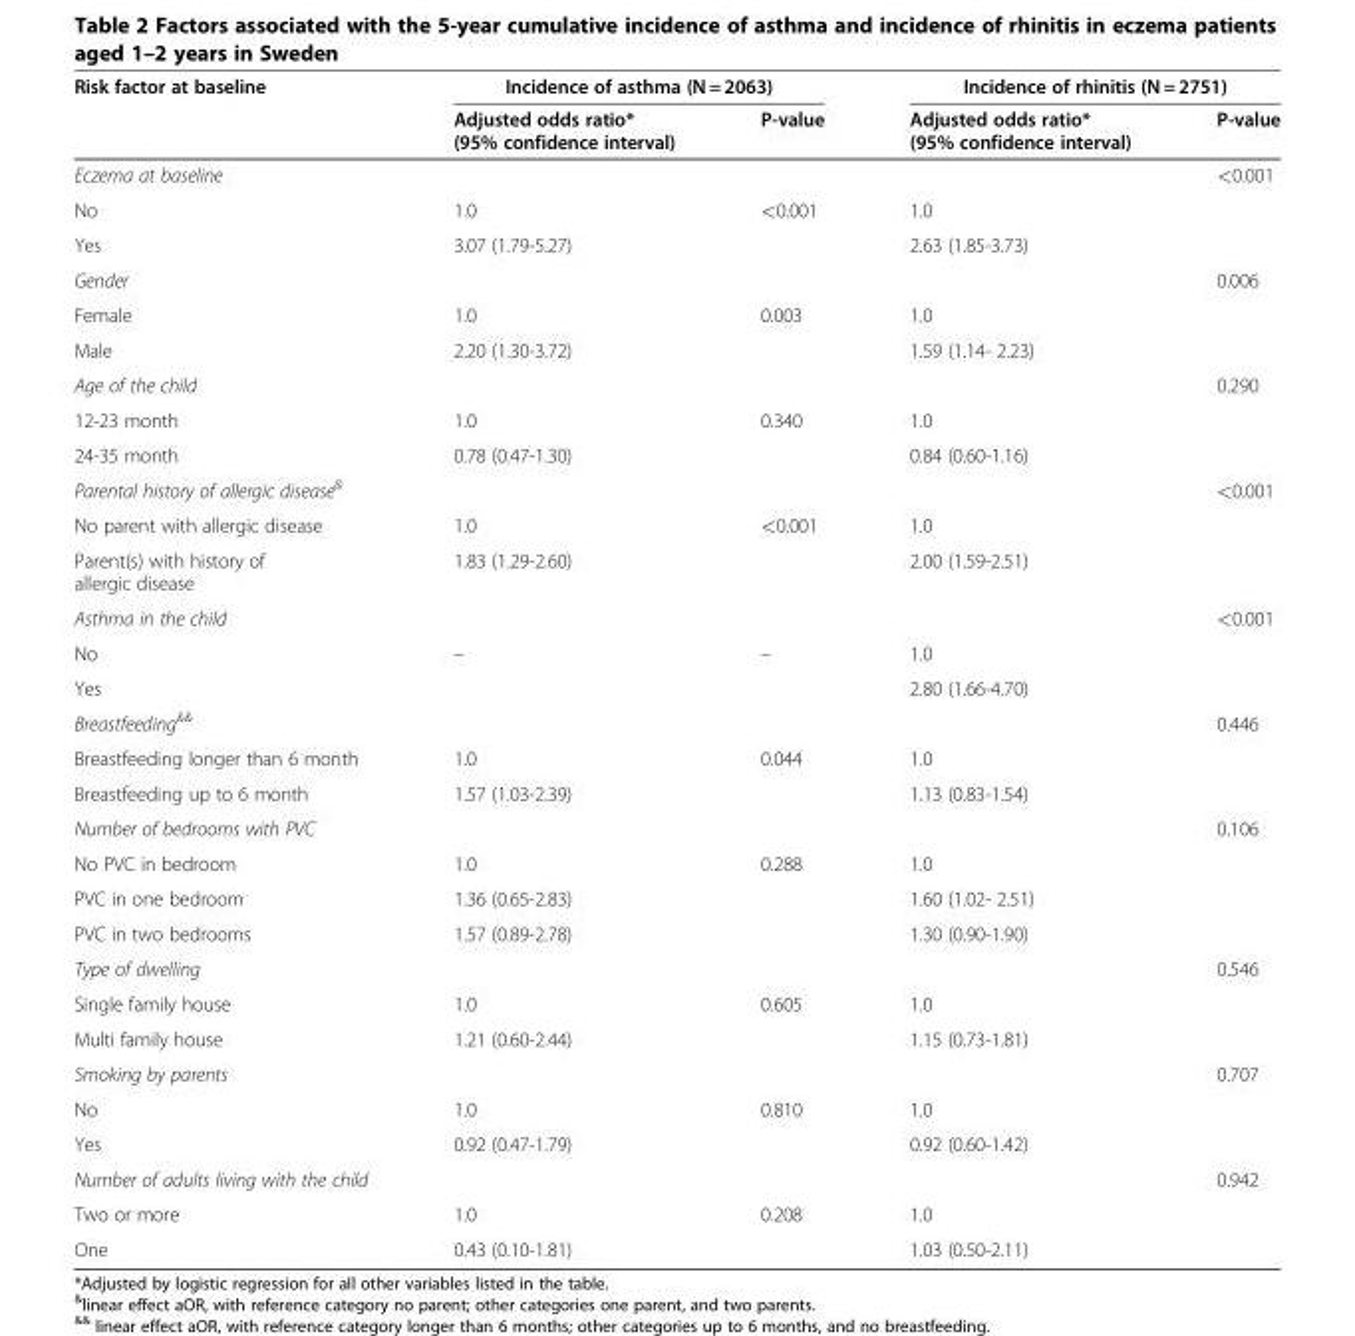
<table><thead><tr><td rowspan="2">Risk factor at baseline</td><td colspan="2">Incidence of asthma (N = 2063)</td><td colspan="2">Incidence of rhinitis (N = 2751)</td></tr><tr><td>Adjusted odds ratio* (95% confidence interval)</td><td>P-value</td><td>Adjusted odds ratio* (95% confidence interval)</td><td>P-value</td></tr></thead><tbody><tr><td>Eczema at baseline</td><td></td><td></td><td></td><td>&lt;0.001</td></tr><tr><td>No</td><td>1.0</td><td>&lt;0.001</td><td>1.0</td><td></td></tr><tr><td>Yes</td><td>3.07 (1.79-5.27)</td><td></td><td>2.63 (1.85-3.73)</td><td></td></tr><tr><td>Gender</td><td></td><td></td><td></td><td>0.006</td></tr><tr><td>Female</td><td>1.0</td><td>0.003</td><td>1.0</td><td></td></tr><tr><td>Male</td><td>2.20 (1.30-3.72)</td><td></td><td>1.59 (1.14- 2.23)</td><td></td></tr><tr><td>Age of the child</td><td></td><td></td><td></td><td>0.290</td></tr><tr><td>12-23 month</td><td>1.0</td><td>0.340</td><td>1.0</td><td></td></tr><tr><td>24-35 month</td><td>0.78 (0.47-1.30)</td><td></td><td>0.84 (0.60-1.16)</td><td></td></tr><tr><td>Parental history of allergic disease<sup>&amp;</sup></td><td></td><td></td><td></td><td>&lt;0.001</td></tr><tr><td>No parent with allergic disease</td><td>1.0</td><td>&lt;0.001</td><td>1.0</td><td></td></tr><tr><td>Parent(s) with history of allergic disease</td><td>1.83 (1.29-2.60)</td><td></td><td>2.00 (1.59-2.51)</td><td></td></tr><tr><td>Asthma in the child</td><td></td><td></td><td></td><td>&lt;0.001</td></tr><tr><td>No</td><td>–</td><td>–</td><td>1.0</td><td></td></tr><tr><td>Yes</td><td></td><td></td><td>2.80 (1.66-4.70)</td><td></td></tr><tr><td>Breastfeeding<sup>&amp;&amp;</sup></td><td></td><td></td><td></td><td>0.446</td></tr><tr><td>Breastfeeding longer than 6 month</td><td>1.0</td><td>0.044</td><td>1.0</td><td></td></tr><tr><td>Breastfeeding up to 6 month</td><td>1.57 (1.03-2.39)</td><td></td><td>1.13 (0.83-1.54)</td><td></td></tr><tr><td>Number of bedrooms with PVC</td><td></td><td></td><td></td><td>0.106</td></tr><tr><td>No PVC in bedroom</td><td>1.0</td><td>0.288</td><td>1.0</td><td></td></tr><tr><td>PVC in one bedroom</td><td>1.36 (0.65-2.83)</td><td></td><td>1.60 (1.02- 2.51)</td><td></td></tr><tr><td>PVC in two bedrooms</td><td>1.57 (0.89-2.78)</td><td></td><td>1.30 (0.90-1.90)</td><td></td></tr><tr><td>Type of dwelling</td><td></td><td></td><td></td><td>0.546</td></tr><tr><td>Single family house</td><td>1.0</td><td>0.605</td><td>1.0</td><td></td></tr><tr><td>Multi family house</td><td>1.21 (0.60-2.44)</td><td></td><td>1.15 (0.73-1.81)</td><td></td></tr><tr><td>Smoking by parents</td><td></td><td></td><td></td><td>0.707</td></tr><tr><td>No</td><td>1.0</td><td>0.810</td><td>1.0</td><td></td></tr><tr><td>Yes</td><td>0.92 (0.47-1.79)</td><td></td><td>0.92 (0.60-1.42)</td><td></td></tr><tr><td>Number of adults living with the child</td><td></td><td></td><td></td><td>0.942</td></tr><tr><td>Two or more</td><td>1.0</td><td>0.208</td><td>1.0</td><td></td></tr><tr><td>One</td><td>0.43 (0.10-1.81)</td><td></td><td>1.03 (0.50-2.11)</td><td></td></tr></tbody></table>